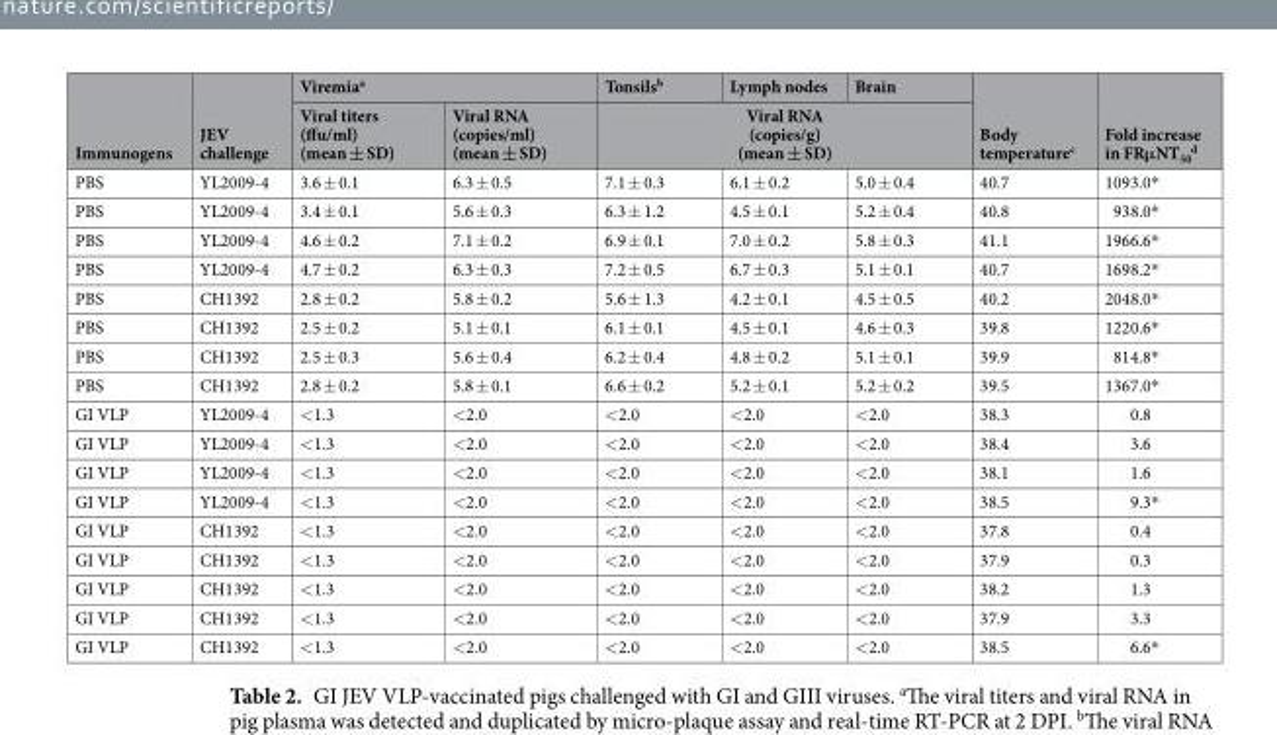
<table><thead><tr><td rowspan="2">Immunogens</td><td rowspan="2">JEV challenge</td><td colspan="2">Viremia<sup>a</sup></td><td>Tonsils<sup>b</sup></td><td>Lymph nodes</td><td>Brain</td><td rowspan="2">Body temperature<sup>c</sup></td><td rowspan="2">Fold increase in FRμNT<sub>50</sub> <sup>d</sup></td></tr><tr><td>Viral titers (ffu/ml) (mean ± SD)</td><td>Viral RNA (copies/ml) (mean ± SD)</td><td colspan="3">Viral RNA (copies/g) (mean ± SD)</td></tr></thead><tbody><tr><td>PBS</td><td>YL2009-4</td><td>3.6 ± 0.1</td><td>6.3 ± 0.5</td><td>7.1 ± 0.3</td><td>6.1 ± 0.2</td><td>5.0 ± 0.4</td><td>40.7</td><td>1093.0*</td></tr><tr><td>PBS</td><td>YL2009-4</td><td>3.4 ± 0.1</td><td>5.6 ± 0.3</td><td>6.3 ± 1.2</td><td>4.5 ± 0.1</td><td>5.2 ± 0.4</td><td>40.8</td><td>938.0*</td></tr><tr><td>PBS</td><td>YL2009-4</td><td>4.6 ± 0.2</td><td>7.1 ± 0.2</td><td>6.9 ± 0.1</td><td>7.0 ± 0.2</td><td>5.8 ± 0.3</td><td>41.1</td><td>1966.6*</td></tr><tr><td>PBS</td><td>YL2009-4</td><td>4.7 ± 0.2</td><td>6.3 ± 0.3</td><td>7.2 ± 0.5</td><td>6.7 ± 0.3</td><td>5.1 ± 0.1</td><td>40.7</td><td>1698.2*</td></tr><tr><td>PBS</td><td>CH1392</td><td>2.8 ± 0.2</td><td>5.8 ± 0.2</td><td>5.6 ± 1.3</td><td>4.2 ± 0.1</td><td>4.5 ± 0.5</td><td>40.2</td><td>2048.0*</td></tr><tr><td>PBS</td><td>CH1392</td><td>2.5 ± 0.2</td><td>5.1 ± 0.1</td><td>6.1 ± 0.1</td><td>4.5 ± 0.1</td><td>4.6 ± 0.3</td><td>39.8</td><td>1220.6*</td></tr><tr><td>PBS</td><td>CH1392</td><td>2.5 ± 0.3</td><td>5.6 ± 0.4</td><td>6.2 ± 0.4</td><td>4.8 ± 0.2</td><td>5.1 ± 0.1</td><td>39.9</td><td>814.8*</td></tr><tr><td>PBS</td><td>CH1392</td><td>2.8 ± 0.2</td><td>5.8 ± 0.1</td><td>6.6 ± 0.2</td><td>5.2 ± 0.1</td><td>5.2 ± 0.2</td><td>39.5</td><td>1367.0*</td></tr><tr><td>GI VLP</td><td>YL2009-4</td><td>&lt;1.3</td><td>&lt;2.0</td><td>&lt;2.0</td><td>&lt;2.0</td><td>&lt;2.0</td><td>38.3</td><td>0.8</td></tr><tr><td>GI VLP</td><td>YL2009-4</td><td>&lt;1.3</td><td>&lt;2.0</td><td>&lt;2.0</td><td>&lt;2.0</td><td>&lt;2.0</td><td>38.4</td><td>3.6</td></tr><tr><td>GI VLP</td><td>YL2009-4</td><td>&lt;1.3</td><td>&lt;2.0</td><td>&lt;2.0</td><td>&lt;2.0</td><td>&lt;2.0</td><td>38.1</td><td>1.6</td></tr><tr><td>GI VLP</td><td>YL2009-4</td><td>&lt;1.3</td><td>&lt;2.0</td><td>&lt;2.0</td><td>&lt;2.0</td><td>&lt;2.0</td><td>38.5</td><td>9.3*</td></tr><tr><td>GI VLP</td><td>CH1392</td><td>&lt;1.3</td><td>&lt;2.0</td><td>&lt;2.0</td><td>&lt;2.0</td><td>&lt;2.0</td><td>37.8</td><td>0.4</td></tr><tr><td>GI VLP</td><td>CH1392</td><td>&lt;1.3</td><td>&lt;2.0</td><td>&lt;2.0</td><td>&lt;2.0</td><td>&lt;2.0</td><td>37.9</td><td>0.3</td></tr><tr><td>GI VLP</td><td>CH1392</td><td>&lt;1.3</td><td>&lt;2.0</td><td>&lt;2.0</td><td>&lt;2.0</td><td>&lt;2.0</td><td>38.2</td><td>1.3</td></tr><tr><td>GI VLP</td><td>CH1392</td><td>&lt;1.3</td><td>&lt;2.0</td><td>&lt;2.0</td><td>&lt;2.0</td><td>&lt;2.0</td><td>37.9</td><td>3.3</td></tr><tr><td>GI VLP</td><td>CH1392</td><td>&lt;1.3</td><td>&lt;2.0</td><td>&lt;2.0</td><td>&lt;2.0</td><td>&lt;2.0</td><td>38.5</td><td>6.6*</td></tr></tbody></table>